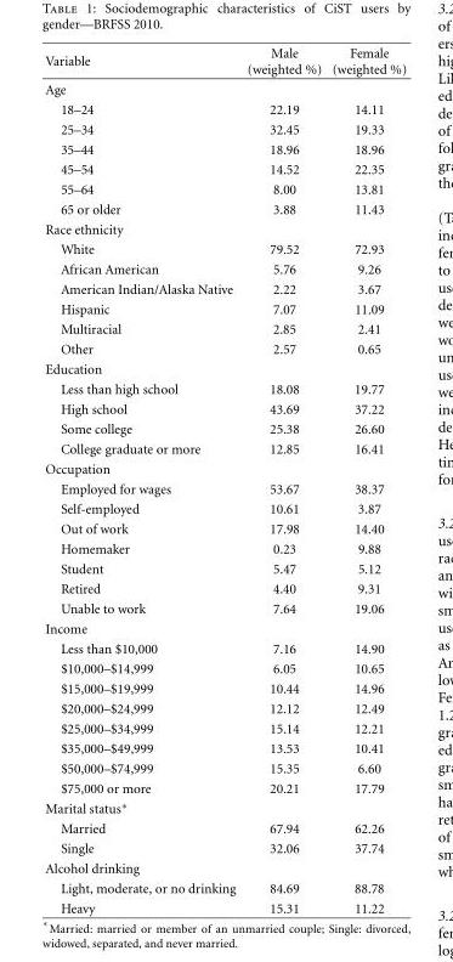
<table><thead><tr><td>Variable</td><td>Male (weighted %)</td><td>Female (weighted %)</td></tr></thead><tbody><tr><td colspan="3">Age</td></tr><tr><td>18–24</td><td>22.19</td><td>14.11</td></tr><tr><td>25–34</td><td>32.45</td><td>19.33</td></tr><tr><td>35–44</td><td>18.96</td><td>18.96</td></tr><tr><td>45–54</td><td>14.52</td><td>22.35</td></tr><tr><td>55–64</td><td>8.00</td><td>13.81</td></tr><tr><td>65 or older</td><td>3.88</td><td>11.43</td></tr><tr><td colspan="3">Race ethnicity</td></tr><tr><td>White</td><td>79.52</td><td>72.93</td></tr><tr><td>African American</td><td>5.76</td><td>9.26</td></tr><tr><td>American Indian/Alaska Native</td><td>2.22</td><td>3.67</td></tr><tr><td>Hispanic</td><td>7.07</td><td>11.09</td></tr><tr><td>Multiracial</td><td>2.85</td><td>2.41</td></tr><tr><td>Other</td><td>2.57</td><td>0.65</td></tr><tr><td colspan="3">Education</td></tr><tr><td>Less than high school</td><td>18.08</td><td>19.77</td></tr><tr><td>High school</td><td>43.69</td><td>37.22</td></tr><tr><td>Some college</td><td>25.38</td><td>26.60</td></tr><tr><td>College graduate or more</td><td>12.85</td><td>16.41</td></tr><tr><td colspan="3">Occupation</td></tr><tr><td>Employed for wages</td><td>53.67</td><td>38.37</td></tr><tr><td>Self-employed</td><td>10.61</td><td>3.87</td></tr><tr><td>Out of work</td><td>17.98</td><td>14.40</td></tr><tr><td>Homemaker</td><td>0.23</td><td>9.88</td></tr><tr><td>Student</td><td>5.47</td><td>5.12</td></tr><tr><td>Retired</td><td>4.40</td><td>9.31</td></tr><tr><td>Unable to work</td><td>7.64</td><td>19.06</td></tr><tr><td colspan="3">Income</td></tr><tr><td>Less than $10,000</td><td>7.16</td><td>14.90</td></tr><tr><td>$10,000–$14,999</td><td>6.05</td><td>10.65</td></tr><tr><td>$15,000–$19,999</td><td>10.44</td><td>14.96</td></tr><tr><td>$20,000–$24,999</td><td>12.12</td><td>12.49</td></tr><tr><td>$25,000–$34,999</td><td>15.14</td><td>12.21</td></tr><tr><td>$35,000–$49,999</td><td>13.53</td><td>10.41</td></tr><tr><td>$50,000–$74,999</td><td>15.35</td><td>6.60</td></tr><tr><td>$75,000 or more</td><td>20.21</td><td>17.79</td></tr><tr><td colspan="3">Marital status∗</td></tr><tr><td>Married</td><td>67.94</td><td>62.26</td></tr><tr><td>Single</td><td>32.06</td><td>37.74</td></tr><tr><td colspan="3">Alcohol drinking</td></tr><tr><td>Light, moderate, or no drinking</td><td>84.69</td><td>88.78</td></tr><tr><td>Heavy</td><td>15.31</td><td>11.22</td></tr></tbody></table>